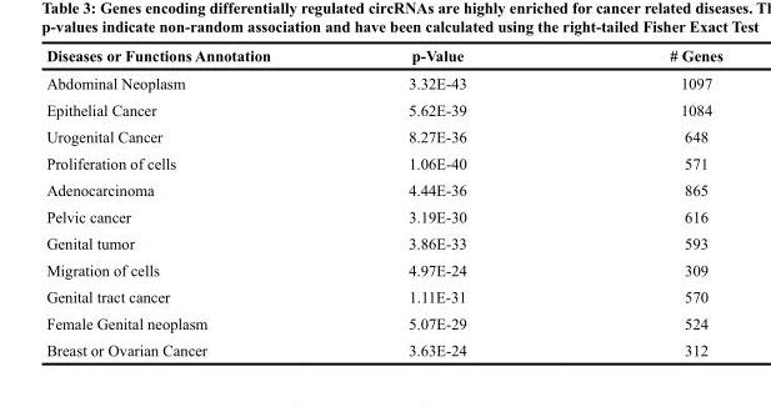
<table><thead><tr><td>Diseases or Functions Annotation</td><td>p-Value</td><td># Genes</td></tr></thead><tbody><tr><td>Abdominal Neoplasm</td><td>3.32E-43</td><td>1097</td></tr><tr><td>Epithelial Cancer</td><td>5.62E-39</td><td>1084</td></tr><tr><td>Urogenital Cancer</td><td>8.27E-36</td><td>648</td></tr><tr><td>Proliferation of cells</td><td>1.06E-40</td><td>571</td></tr><tr><td>Adenocarcinoma</td><td>4.44E-36</td><td>865</td></tr><tr><td>Pelvic cancer</td><td>3.19E-30</td><td>616</td></tr><tr><td>Genital tumor</td><td>3.86E-33</td><td>593</td></tr><tr><td>Migration of cells</td><td>4.97E-24</td><td>309</td></tr><tr><td>Genital tract cancer</td><td>1.11E-31</td><td>570</td></tr><tr><td>Female Genital neoplasm</td><td>5.07E-29</td><td>524</td></tr><tr><td>Breast or Ovarian Cancer</td><td>3.63E-24</td><td>312</td></tr></tbody></table>